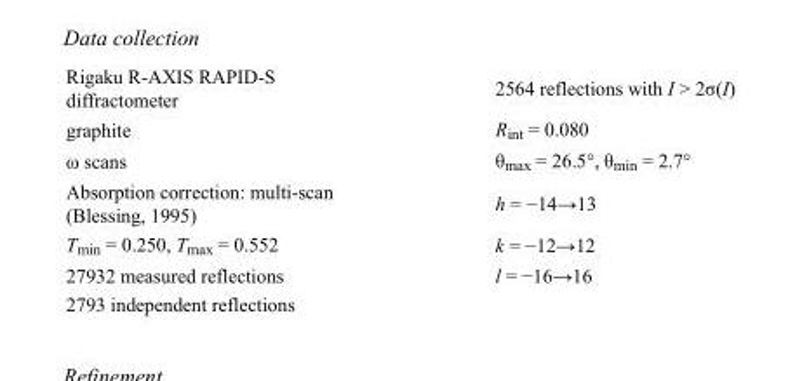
<table><tbody><tr><td>Rigaku R-AXIS RAPID-S diffractometer</td><td>2564 reflections with I &gt; 2σ(I)</td></tr><tr><td>graphite</td><td>R<sub>int</sub> = 0.080</td></tr><tr><td>ω scans</td><td>θ<sub>max</sub> = 26.5°, θ<sub>min</sub> = 2.7°</td></tr><tr><td>Absorption correction: multi-scan (Blessing, 1995)</td><td>h = −14→13</td></tr><tr><td>T<sub>min</sub> = 0.250, T<sub>max</sub> = 0.552</td><td>k = −12→12</td></tr><tr><td>27932 measured reflections</td><td>l = −16→16</td></tr><tr><td>2793 independent reflections</td><td></td></tr></tbody></table>